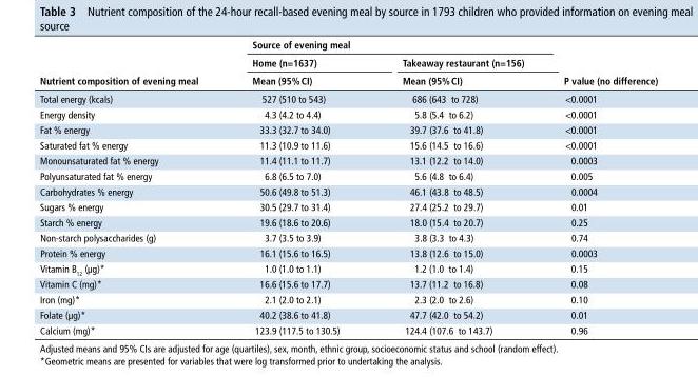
<table><thead><tr><td rowspan="3">nutrient composition of evening meal</td><td colspan="2">source of evening meal</td><td rowspan="3">P value (no difference)</td></tr><tr><td rowspan="2">home (n=1637) Mean (95% CI)</td><td rowspan="2">Takeaway restaurant (n=156) Mean (95% CI)</td></tr><tr></tr></thead><tbody><tr><td>Total energy (kcals)</td><td>527 (510 to 543)</td><td>686 (643 to 728)</td><td>&lt;0.0001</td></tr><tr><td>Energy density</td><td>4.3 (4.2 to 4.4)</td><td>5.8 (5.4 to 6.2)</td><td>&lt;0.0001</td></tr><tr><td>Fat % energy</td><td>33.3 (32.7 to 34.0)</td><td>39.7 (37.6 to 41.8)</td><td>&lt;0.0001</td></tr><tr><td>Saturated fat % energy</td><td>11.3 (10.9 to 11.6)</td><td>15.6 (14.5 to 16.6)</td><td>&lt;0.0001</td></tr><tr><td>Monounsaturated fat % energy</td><td>11.4 (11.1 to 11.7)</td><td>13.1 (12.2 to 14.0)</td><td>0.0003</td></tr><tr><td>Polyunsaturated fat % energy</td><td>6.8 (6.5 to 7.0)</td><td>5.6 (4.8 to 6.4)</td><td>0.005</td></tr><tr><td>Carbohydrates % energy</td><td>50.6 (49.8 to 51.3)</td><td>46.1 (43.8 to 48.5)</td><td>0.0004</td></tr><tr><td>Sugars % energy</td><td>30.5 (29.7 to 31.4)</td><td>27.4 (25.2 to 29.7)</td><td>0.01</td></tr><tr><td>Starch % energy</td><td>19.6 (18.6 to 20.6)</td><td>18.0 (15.4 to 20.7)</td><td>0.25</td></tr><tr><td>Non-starch polysaccharides (g)</td><td>3.7 (3.5 to 3.9)</td><td>3.8 (3.3 to 4.3)</td><td>0.74</td></tr><tr><td>Protein % energy</td><td>16.1 (15.6 to 16.5)</td><td>13.8 (12.6 to 15.0)</td><td>0.0003</td></tr><tr><td>Vitamin B<sub>12</sub> (µg)*</td><td>1.0 (1.0 to 1.1)</td><td>1.2 (1.0 to 1.4)</td><td>0.15</td></tr><tr><td>Vitamin C (mg)*</td><td>16.6 (15.6 to 17.7)</td><td>13.7 (11.2 to 16.8)</td><td>0.08</td></tr><tr><td>Iron (mg)*</td><td>2.1 (2.0 to 2.1)</td><td>2.3 (2.0 to 2.6)</td><td>0.10</td></tr><tr><td>Folate (µg)*</td><td>40.2 (38.6 to 41.8)</td><td>47.7 (42.0 to 54.2)</td><td>0.01</td></tr><tr><td>Calcium (mg)*</td><td>123.9 (117.5 to 130.5)</td><td>124.4 (107.6 to 143.7)</td><td>0.96</td></tr></tbody></table>